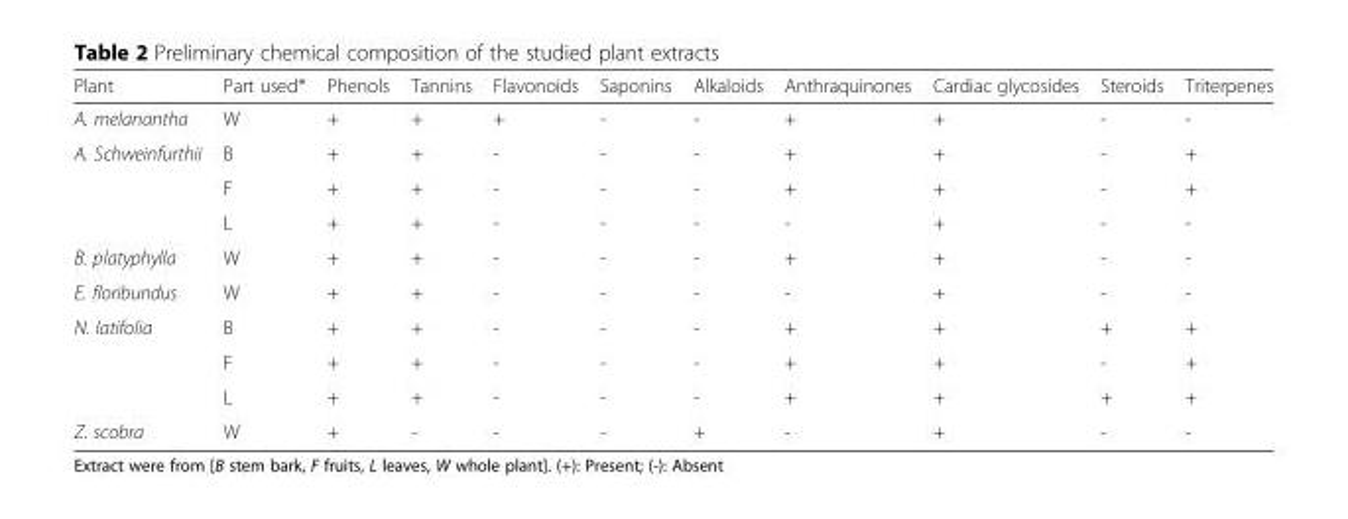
<table><thead><tr><td>Plant</td><td>Part used*</td><td>Phenols</td><td>Tannins</td><td>Flavonoids</td><td>Saponins</td><td>Alkaloids</td><td>Anthraquinones</td><td>Cardiac glycosides</td><td>Steroids</td><td>Triterpenes</td></tr></thead><tbody><tr><td>A. melanantha</td><td>W</td><td>+</td><td>+</td><td>+</td><td>-</td><td>-</td><td>+</td><td>+</td><td>-</td><td>-</td></tr><tr><td rowspan="3">A. Schweinfurthii</td><td>B</td><td>+</td><td>+</td><td>-</td><td>-</td><td>-</td><td>+</td><td>+</td><td>-</td><td>+</td></tr><tr><td>F</td><td>+</td><td>+</td><td>-</td><td>-</td><td>-</td><td>+</td><td>+</td><td>-</td><td>+</td></tr><tr><td>L</td><td>+</td><td>+</td><td>-</td><td>-</td><td>-</td><td>-</td><td>+</td><td>-</td><td>-</td></tr><tr><td>B. platyphylla</td><td>W</td><td>+</td><td>+</td><td>-</td><td>-</td><td>-</td><td>+</td><td>+</td><td>-</td><td>-</td></tr><tr><td>E. floribundus</td><td>W</td><td>+</td><td>+</td><td>-</td><td>-</td><td>-</td><td>-</td><td>+</td><td>-</td><td>-</td></tr><tr><td rowspan="3">N. latifolia</td><td>B</td><td>+</td><td>+</td><td>-</td><td>-</td><td>-</td><td>+</td><td>+</td><td>+</td><td>+</td></tr><tr><td>F</td><td>+</td><td>+</td><td>-</td><td>-</td><td>-</td><td>+</td><td>+</td><td>-</td><td>+</td></tr><tr><td>L</td><td>+</td><td>+</td><td>-</td><td>-</td><td>-</td><td>+</td><td>+</td><td>+</td><td>+</td></tr><tr><td>Z. scobra</td><td>W</td><td>+</td><td>-</td><td>-</td><td>-</td><td>+</td><td>-</td><td>+</td><td>-</td><td>-</td></tr></tbody></table>